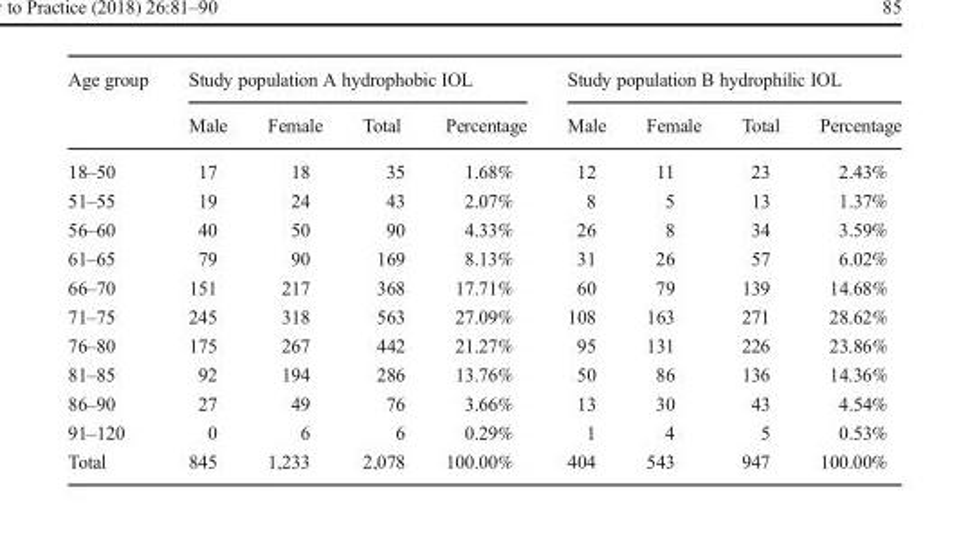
<table><thead><tr><td rowspan="2">Age group</td><td colspan="4">Study population A hydrophobic IOL</td><td colspan="4">Study population B hydrophilic IOL</td></tr><tr><td>Male</td><td>Female</td><td>Total</td><td>Percentage</td><td>Male</td><td>Female</td><td>Total</td><td>Percentage</td></tr></thead><tbody><tr><td>18–50</td><td>17</td><td>18</td><td>35</td><td>1.68%</td><td>12</td><td>11</td><td>23</td><td>2.43%</td></tr><tr><td>51–55</td><td>19</td><td>24</td><td>43</td><td>2.07%</td><td>8</td><td>5</td><td>13</td><td>1.37%</td></tr><tr><td>56–60</td><td>40</td><td>50</td><td>90</td><td>4.33%</td><td>26</td><td>8</td><td>34</td><td>3.59%</td></tr><tr><td>61–65</td><td>79</td><td>90</td><td>169</td><td>8.13%</td><td>31</td><td>26</td><td>57</td><td>6.02%</td></tr><tr><td>66–70</td><td>151</td><td>217</td><td>368</td><td>17.71%</td><td>60</td><td>79</td><td>139</td><td>14.68%</td></tr><tr><td>71–75</td><td>245</td><td>318</td><td>563</td><td>27.09%</td><td>108</td><td>163</td><td>271</td><td>28.62%</td></tr><tr><td>76–80</td><td>175</td><td>267</td><td>442</td><td>21.27%</td><td>95</td><td>131</td><td>226</td><td>23.86%</td></tr><tr><td>81–85</td><td>92</td><td>194</td><td>286</td><td>13.76%</td><td>50</td><td>86</td><td>136</td><td>14.36%</td></tr><tr><td>86–90</td><td>27</td><td>49</td><td>76</td><td>3.66%</td><td>13</td><td>30</td><td>43</td><td>4.54%</td></tr><tr><td>91–120</td><td>0</td><td>6</td><td>6</td><td>0.29%</td><td>1</td><td>4</td><td>5</td><td>0.53%</td></tr><tr><td>Total</td><td>845</td><td>1,233</td><td>2,078</td><td>100.00%</td><td>404</td><td>543</td><td>947</td><td>100.00%</td></tr></tbody></table>